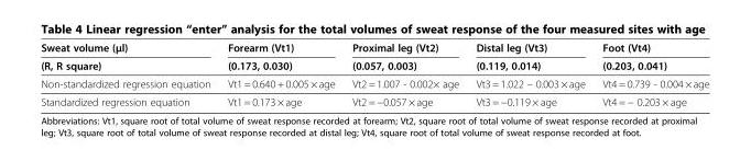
<table><thead><tr><td rowspan="2">Sweat volume (μl) (R, R square)</td><td rowspan="2">Forearm (Vt1) (0.173, 0.030)</td><td rowspan="2">Proximal leg (Vt2) (0.057, 0.003)</td><td rowspan="2">Distal leg (Vt3) (0.119, 0.014)</td><td rowspan="2">Foot (Vt4) (0.203, 0.041)</td></tr><tr></tr></thead><tbody><tr><td>Non-standardized regression equation</td><td>Vt1 = 0.640 + 0.005 × age</td><td>Vt2 = 1.007 - 0.002× age</td><td>Vt3 = 1.022 – 0.003 × age</td><td>Vt4 = 0.739 - 0.004 × age</td></tr><tr><td>Standardized regression equation</td><td>Vt1 = 0.173 × age</td><td>Vt2 = −0.057 × age</td><td>Vt3 = −0.119 × age</td><td>Vt4 = − 0.203 × age</td></tr></tbody></table>